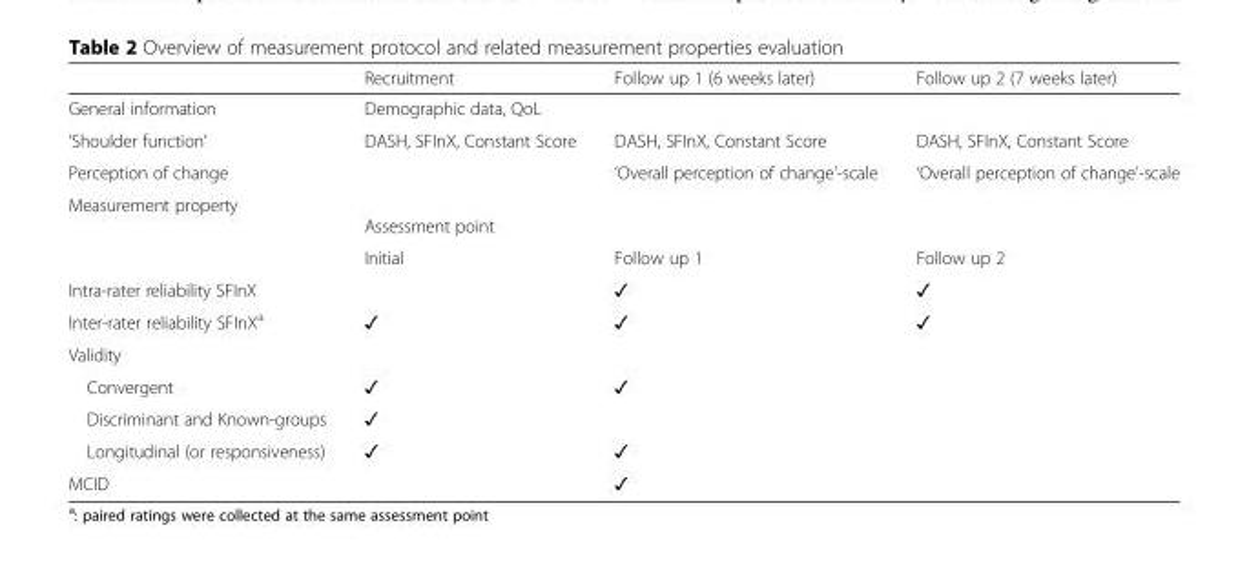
<table><thead><tr><td></td><td>Recruitment</td><td>Follow up 1 (6 weeks later)</td><td>Follow up 2 (7 weeks later)</td></tr></thead><tbody><tr><td>General information</td><td>Demographic data, QoL</td><td></td><td></td></tr><tr><td>‘Shoulder function’</td><td>DASH, SFInX, Constant Score</td><td>DASH, SFInX, Constant Score</td><td>DASH, SFInX, Constant Score</td></tr><tr><td>Perception of change</td><td></td><td>‘Overall perception of change’-scale</td><td>‘Overall perception of change’-scale</td></tr><tr><td rowspan="2">Measurement property</td><td colspan="3">Assessment point</td></tr><tr><td>Initial</td><td>Follow up 1</td><td>Follow up 2</td></tr><tr><td>Intra-rater reliability SFInX</td><td></td><td>✓</td><td>✓</td></tr><tr><td>Inter-rater reliability SFInX<sup>a</sup></td><td>✓</td><td>✓</td><td>✓</td></tr><tr><td colspan="4">Validity</td></tr><tr><td>Convergent</td><td>✓</td><td>✓</td><td></td></tr><tr><td>Discriminant and Known-groups</td><td>✓</td><td></td><td></td></tr><tr><td>Longitudinal (or responsiveness)</td><td>✓</td><td>✓</td><td></td></tr><tr><td>MCID</td><td></td><td>✓</td><td></td></tr></tbody></table>